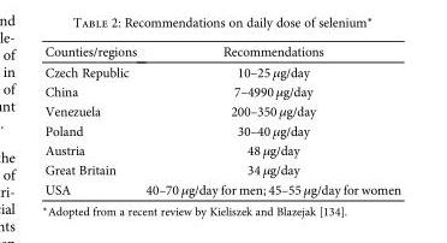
<table><thead><tr><td>Counties/regions</td><td>Recommendations</td></tr></thead><tbody><tr><td>Czech Republic</td><td>10–25 μg/day</td></tr><tr><td>China</td><td>7–4990 μg/day</td></tr><tr><td>Venezuela</td><td>200–350 μg/day</td></tr><tr><td>Poland</td><td>30–40 μg/day</td></tr><tr><td>Austria</td><td>48 μg/day</td></tr><tr><td>Great Britain</td><td>34 μg/day</td></tr><tr><td>USA</td><td>40–70 μg/day for men; 45–55 μg/day for women</td></tr></tbody></table>